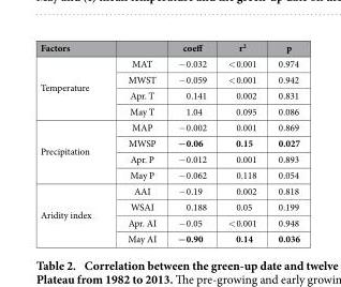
<table><thead><tr><td>Factors</td><td></td><td>coeff</td><td>r<sup>2</sup></td><td>p</td></tr></thead><tbody><tr><td rowspan="4">Temperature</td><td>MAT</td><td>− 0.032</td><td>&lt; 0.001</td><td>0.974</td></tr><tr><td>MWST</td><td>− 0.059</td><td>&lt; 0.001</td><td>0.942</td></tr><tr><td>Apr. T</td><td>0.141</td><td>0.002</td><td>0.831</td></tr><tr><td>May T</td><td>1.04</td><td>0.095</td><td>0.086</td></tr><tr><td rowspan="4">Precipitation</td><td>MAP</td><td>− 0.002</td><td>0.001</td><td>0.869</td></tr><tr><td>MWSP</td><td>−0.06</td><td>0.15</td><td>0.027</td></tr><tr><td>Apr. P</td><td>− 0.012</td><td>0.001</td><td>0.893</td></tr><tr><td>May P</td><td>− 0.062</td><td>0.118</td><td>0.054</td></tr><tr><td rowspan="4">Aridity index</td><td>AAI</td><td>− 0.19</td><td>0.002</td><td>0.818</td></tr><tr><td>WSAI</td><td>0.188</td><td>0.05</td><td>0.199</td></tr><tr><td>Apr. AI</td><td>− 0.05</td><td>&lt; 0.001</td><td>0.948</td></tr><tr><td>May AI</td><td>−0.90</td><td>0.14</td><td>0.036</td></tr></tbody></table>